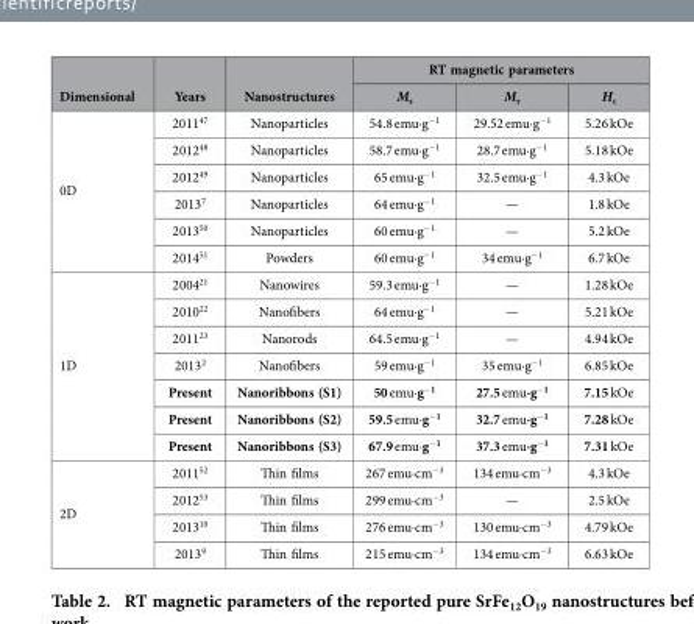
<table><thead><tr><td rowspan="2">Dimensional</td><td rowspan="2">Years</td><td rowspan="2">Nanostructures</td><td colspan="3">RT magnetic parameters</td></tr><tr><td>M<sub>s</sub></td><td>M<sub>r</sub></td><td>H<sub>c</sub></td></tr></thead><tbody><tr><td rowspan="6">0D</td><td>2011<sup>47</sup></td><td>Nanoparticles</td><td>54.8 emu·g<sup>−1</sup></td><td>29.52 emu·g<sup>−1</sup></td><td>5.26 kOe</td></tr><tr><td>2012<sup>48</sup></td><td>Nanoparticles</td><td>58.7 emu·g<sup>−1</sup></td><td>28.7 emu·g<sup>−1</sup></td><td>5.18 kOe</td></tr><tr><td>2012<sup>49</sup></td><td>Nanoparticles</td><td>65 emu·g<sup>−1</sup></td><td>32.5 emu·g<sup>−1</sup></td><td>4.3 kOe</td></tr><tr><td>2013<sup>7</sup></td><td>Nanoparticles</td><td>64 emu·g<sup>−1</sup></td><td>—</td><td>1.8 kOe</td></tr><tr><td>2013<sup>50</sup></td><td>Nanoparticles</td><td>60 emu·g<sup>−1</sup></td><td>—</td><td>5.2 kOe</td></tr><tr><td>2014<sup>51</sup></td><td>Powders</td><td>60 emu·g<sup>−1</sup></td><td>34 emu·g<sup>−1</sup></td><td>6.7 kOe</td></tr><tr><td rowspan="7">1D</td><td>2004<sup>21</sup></td><td>Nanowires</td><td>59.3 emu·g<sup>−1</sup></td><td>—</td><td>1.28 kOe</td></tr><tr><td>2010<sup>22</sup></td><td>Nanofibers</td><td>64 emu·g<sup>−1</sup></td><td>—</td><td>5.21 kOe</td></tr><tr><td>2011<sup>23</sup></td><td>Nanorods</td><td>64.5 emu·g<sup>−1</sup></td><td>—</td><td>4.94 kOe</td></tr><tr><td>2013<sup>2</sup></td><td>Nanofibers</td><td>59 emu·g<sup>−1</sup></td><td>35 emu·g<sup>−1</sup></td><td>6.85 kOe</td></tr><tr><td>Present</td><td>Nanoribbons (S1)</td><td>50 emu·g<sup>−1</sup></td><td>27.5 emu·g<sup>−1</sup></td><td>7.15 kOe</td></tr><tr><td>Present</td><td>Nanoribbons (S2)</td><td>59.5 emu·g<sup>−1</sup></td><td>32.7 emu·g<sup>−1</sup></td><td>7.28 kOe</td></tr><tr><td>Present</td><td>Nanoribbons (S3)</td><td>67.9 emu·g<sup>−1</sup></td><td>37.3 emu·g<sup>−1</sup></td><td>7.31 kOe</td></tr><tr><td rowspan="4">2D</td><td>2011<sup>52</sup></td><td>Thin films</td><td>267 emu·cm<sup>−3</sup></td><td>134 emu·cm<sup>−3</sup></td><td>4.3 kOe</td></tr><tr><td>2012<sup>53</sup></td><td>Thin films</td><td>299 emu·cm<sup>−3</sup></td><td>—</td><td>2.5 kOe</td></tr><tr><td>2013<sup>10</sup></td><td>Thin films</td><td>276 emu·cm<sup>−3</sup></td><td>130 emu·cm<sup>−3</sup></td><td>4.79 kOe</td></tr><tr><td>2013<sup>9</sup></td><td>Thin films</td><td>215 emu·cm<sup>−3</sup></td><td>134 emu·cm<sup>−3</sup></td><td>6.63 kOe</td></tr></tbody></table>